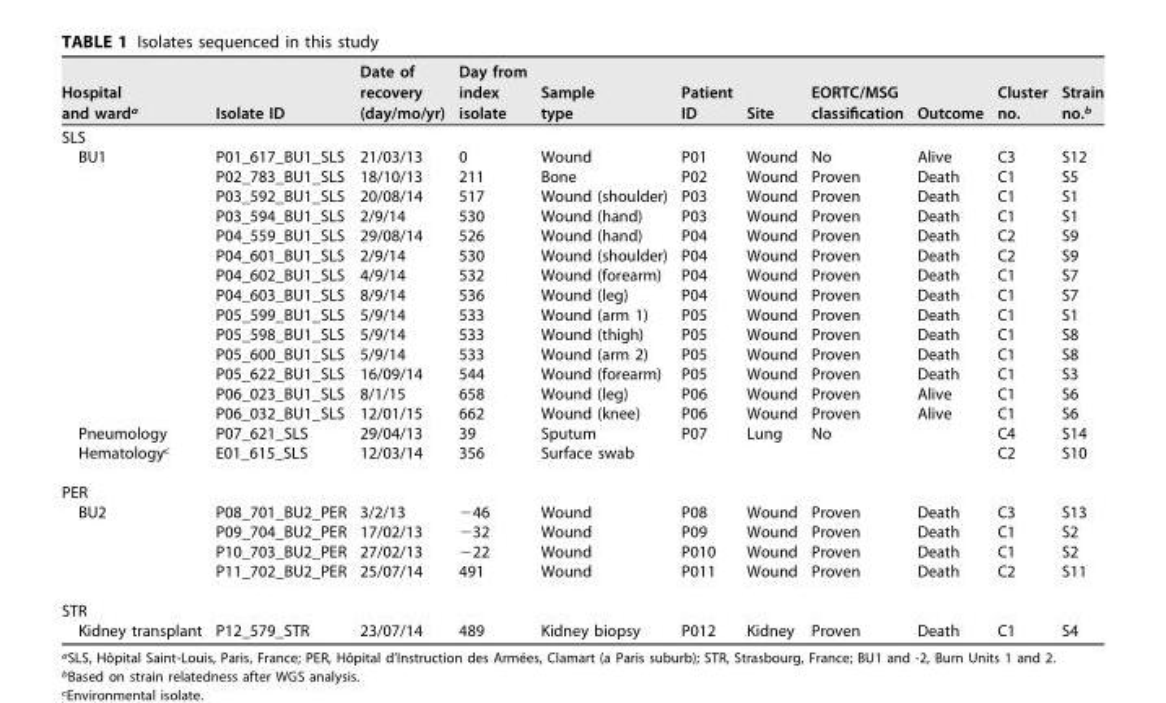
<table><thead><tr><td>Hospital and ward<sup>a</sup></td><td>Isolate ID</td><td>Date of recovery (day/mo/yr)</td><td>Day from index isolate</td><td>Sample type</td><td>Patient ID</td><td>Site</td><td>EORTC/MSG classification</td><td>Outcome</td><td>Cluster no.</td><td>Strain no.<sup>b</sup></td></tr></thead><tbody><tr><td colspan="11">SLS</td></tr><tr><td rowspan="14">BU1</td><td>P01_617_BU1_SLS</td><td>21/03/13</td><td>0</td><td>Wound</td><td>P01</td><td>Wound</td><td>No</td><td>Alive</td><td>C3</td><td>S12</td></tr><tr><td>P02_783_BU1_SLS</td><td>18/10/13</td><td>211</td><td>Bone</td><td>P02</td><td>Wound</td><td>Proven</td><td>Death</td><td>C1</td><td>S5</td></tr><tr><td>P03_592_BU1_SLS</td><td>20/08/14</td><td>517</td><td>Wound (shoulder)</td><td>P03</td><td>Wound</td><td>Proven</td><td>Death</td><td>C1</td><td>S1</td></tr><tr><td>P03_594_BU1_SLS</td><td>2/9/14</td><td>530</td><td>Wound (hand)</td><td>P03</td><td>Wound</td><td>Proven</td><td>Death</td><td>C1</td><td>S1</td></tr><tr><td>P04_559_BU1_SLS</td><td>29/08/14</td><td>526</td><td>Wound (hand)</td><td>P04</td><td>Wound</td><td>Proven</td><td>Death</td><td>C2</td><td>S9</td></tr><tr><td>P04_601_BU1_SLS</td><td>2/9/14</td><td>530</td><td>Wound (shoulder)</td><td>P04</td><td>Wound</td><td>Proven</td><td>Death</td><td>C2</td><td>S9</td></tr><tr><td>P04_602_BU1_SLS</td><td>4/9/14</td><td>532</td><td>Wound (forearm)</td><td>P04</td><td>Wound</td><td>Proven</td><td>Death</td><td>C1</td><td>S7</td></tr><tr><td>P04_603_BU1_SLS</td><td>8/9/14</td><td>536</td><td>Wound (leg)</td><td>P04</td><td>Wound</td><td>Proven</td><td>Death</td><td>C1</td><td>S7</td></tr><tr><td>P05_599_BU1_SLS</td><td>5/9/14</td><td>533</td><td>Wound (arm 1)</td><td>P05</td><td>Wound</td><td>Proven</td><td>Death</td><td>C1</td><td>S1</td></tr><tr><td>P05_598_BU1_SLS</td><td>5/9/14</td><td>533</td><td>Wound (thigh)</td><td>P05</td><td>Wound</td><td>Proven</td><td>Death</td><td>C1</td><td>S8</td></tr><tr><td>P05_600_BU1_SLS</td><td>5/9/14</td><td>533</td><td>Wound (arm 2)</td><td>P05</td><td>Wound</td><td>Proven</td><td>Death</td><td>C1</td><td>S8</td></tr><tr><td>P05_622_BU1_SLS</td><td>16/09/14</td><td>544</td><td>Wound (forearm)</td><td>P05</td><td>Wound</td><td>Proven</td><td>Death</td><td>C1</td><td>S3</td></tr><tr><td>P06_023_BU1_SLS</td><td>8/1/15</td><td>658</td><td>Wound (leg)</td><td>P06</td><td>Wound</td><td>Proven</td><td>Alive</td><td>C1</td><td>S6</td></tr><tr><td>P06_032_BU1_SLS</td><td>12/01/15</td><td>662</td><td>Wound (knee)</td><td>P06</td><td>Wound</td><td>Proven</td><td>Alive</td><td>C1</td><td>S6</td></tr><tr><td>Pneumology</td><td>P07_621_SLS</td><td>29/04/13</td><td>39</td><td>Sputum</td><td>P07</td><td>Lung</td><td>No</td><td></td><td>C4</td><td>S14</td></tr><tr><td>Hematology<sup>c</sup></td><td>E01_615_SLS</td><td>12/03/14</td><td>356</td><td>Surface swab</td><td></td><td></td><td></td><td></td><td>C2</td><td>S10</td></tr><tr><td colspan="11">PER</td></tr><tr><td rowspan="4">BU2</td><td>P08_701_BU2_PER</td><td>3/2/13</td><td>−46</td><td>Wound</td><td>P08</td><td>Wound</td><td>Proven</td><td>Death</td><td>C3</td><td>S13</td></tr><tr><td>P09_704_BU2_PER</td><td>17/02/13</td><td>−32</td><td>Wound</td><td>P09</td><td>Wound</td><td>Proven</td><td>Death</td><td>C1</td><td>S2</td></tr><tr><td>P10_703_BU2_PER</td><td>27/02/13</td><td>−22</td><td>Wound</td><td>P010</td><td>Wound</td><td>Proven</td><td>Death</td><td>C1</td><td>S2</td></tr><tr><td>P11_702_BU2_PER</td><td>25/07/14</td><td>491</td><td>Wound</td><td>P011</td><td>Wound</td><td>Proven</td><td>Death</td><td>C2</td><td>S11</td></tr><tr><td colspan="11">STR</td></tr><tr><td>Kidney transplant</td><td>P12_579_STR</td><td>23/07/14</td><td>489</td><td>Kidney biopsy</td><td>P012</td><td>Kidney</td><td>Proven</td><td>Death</td><td>C1</td><td>S4</td></tr></tbody></table>